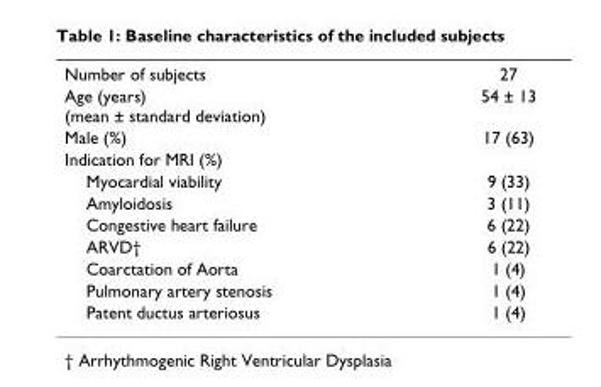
<table><tbody><tr><td>Number of subjects</td><td>27</td></tr><tr><td>Age (years) (mean ± standard deviation)</td><td>54 ± 13</td></tr><tr><td>Male (%)</td><td>17 (63)</td></tr><tr><td colspan="2">Indication for MRI (%)</td></tr><tr><td>Myocardial viability</td><td>9 (33)</td></tr><tr><td>Amyloidosis</td><td>3 (11)</td></tr><tr><td>Congestive heart failure</td><td>6 (22)</td></tr><tr><td>ARVD†</td><td>6 (22)</td></tr><tr><td>Coarctation of Aorta</td><td>1 (4)</td></tr><tr><td>Pulmonary artery stenosis</td><td>1 (4)</td></tr><tr><td>Patent ductus arteriosus</td><td>1 (4)</td></tr></tbody></table>